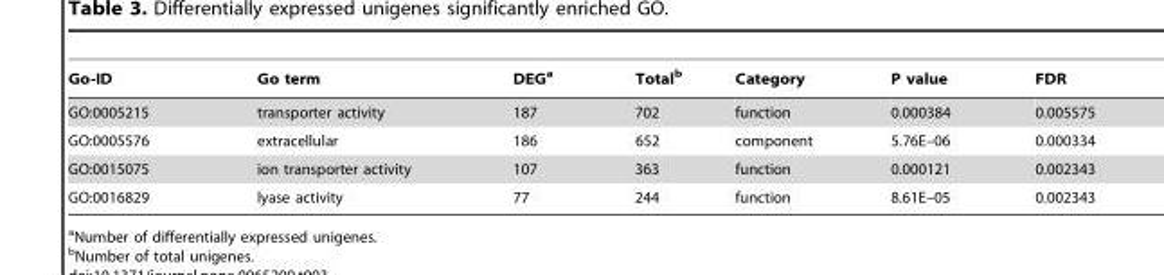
<table><thead><tr><td>Go-ID</td><td>Go term</td><td>DEG<sup>a</sup></td><td>Total<sup>b</sup></td><td>Category</td><td>P value</td><td>FDR</td></tr></thead><tbody><tr><td>GO:0005215</td><td>transporter activity</td><td>187</td><td>702</td><td>function</td><td>0.000384</td><td>0.005575</td></tr><tr><td>GO:0005576</td><td>extracellular</td><td>186</td><td>652</td><td>component</td><td>5.76E–06</td><td>0.000334</td></tr><tr><td>GO:0015075</td><td>ion transporter activity</td><td>107</td><td>363</td><td>function</td><td>0.000121</td><td>0.002343</td></tr><tr><td>GO:0016829</td><td>lyase activity</td><td>77</td><td>244</td><td>function</td><td>8.61E–05</td><td>0.002343</td></tr></tbody></table>